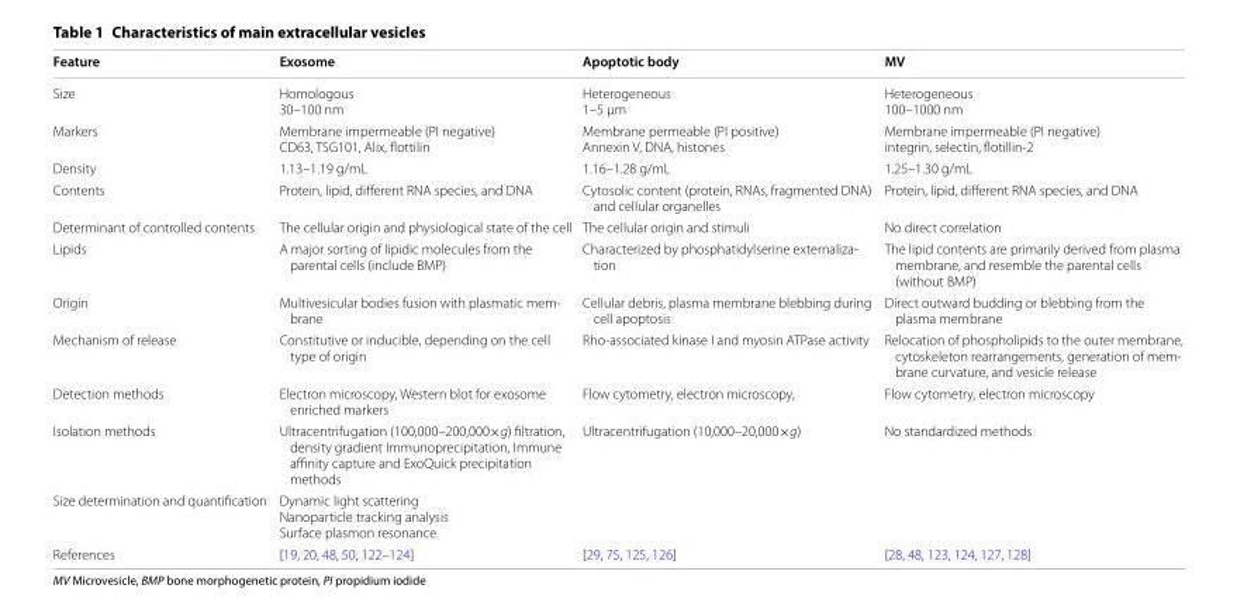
<table><thead><tr><td>Feature</td><td>Exosome</td><td>Apoptotic body</td><td>MV</td></tr></thead><tbody><tr><td>Size</td><td>Homologous 30–100 nm</td><td>Heterogeneous 1–5 μm</td><td>Heterogeneous 100–1000 nm</td></tr><tr><td>Markers</td><td>Membrane impermeable (PI negative) CD63, TSG101, Alix, flottilin</td><td>Membrane permeable (PI positive) Annexin V, DNA, histones</td><td>Membrane impermeable (PI negative) integrin, selectin, flotillin-2</td></tr><tr><td>Density</td><td>1.13–1.19 g/mL</td><td>1.16–1.28 g/mL</td><td>1.25–1.30 g/mL</td></tr><tr><td>Contents</td><td>Protein, lipid, different RNA species, and DNA</td><td>Cytosolic content (protein, RNAs, fragmented DNA) and cellular organelles</td><td>Protein, lipid, different RNA species, and DNA</td></tr><tr><td>Determinant of controlled contents</td><td>The cellular origin and physiological state of the cell</td><td>The cellular origin and stimuli</td><td>No direct correlation</td></tr><tr><td>Lipids</td><td>A major sorting of lipidic molecules from the parental cells (include BMP)</td><td>Characterized by phosphatidylserine externaliza- tion</td><td>The lipid contents are primarily derived from plasma membrane, and resemble the parental cells (without BMP)</td></tr><tr><td>Origin</td><td>Multivesicular bodies fusion with plasmatic mem- brane</td><td>Cellular debris, plasma membrane blebbing during cell apoptosis</td><td>Direct outward budding or blebbing from the plasma membrane</td></tr><tr><td>Mechanism of release</td><td>Constitutive or inducible, depending on the cell type of origin</td><td>Rho-associated kinase I and myosin ATPase activity</td><td>Relocation of phospholipids to the outer membrane, cytoskeleton rearrangements, generation of mem- brane curvature, and vesicle release</td></tr><tr><td>Detection methods</td><td>Electron microscopy, Western blot for exosome enriched markers</td><td>Flow cytometry, electron microscopy,</td><td>Flow cytometry, electron microscopy</td></tr><tr><td>Isolation methods</td><td>Ultracentrifugation (100,000–200,000×g) filtration, density gradient Immunoprecipitation, Immune affinity capture and ExoQuick precipitation methods</td><td>Ultracentrifugation (10,000–20,000×g)</td><td>No standardized methods</td></tr><tr><td>Size determination and quantification</td><td>Dynamic light scattering Nanoparticle tracking analysis Surface plasmon resonance</td><td></td><td></td></tr><tr><td>References</td><td>[19, 20, 48, 50, 122–124]</td><td>[29, 75, 125, 126]</td><td>[28, 48, 123, 124, 127, 128]</td></tr></tbody></table>